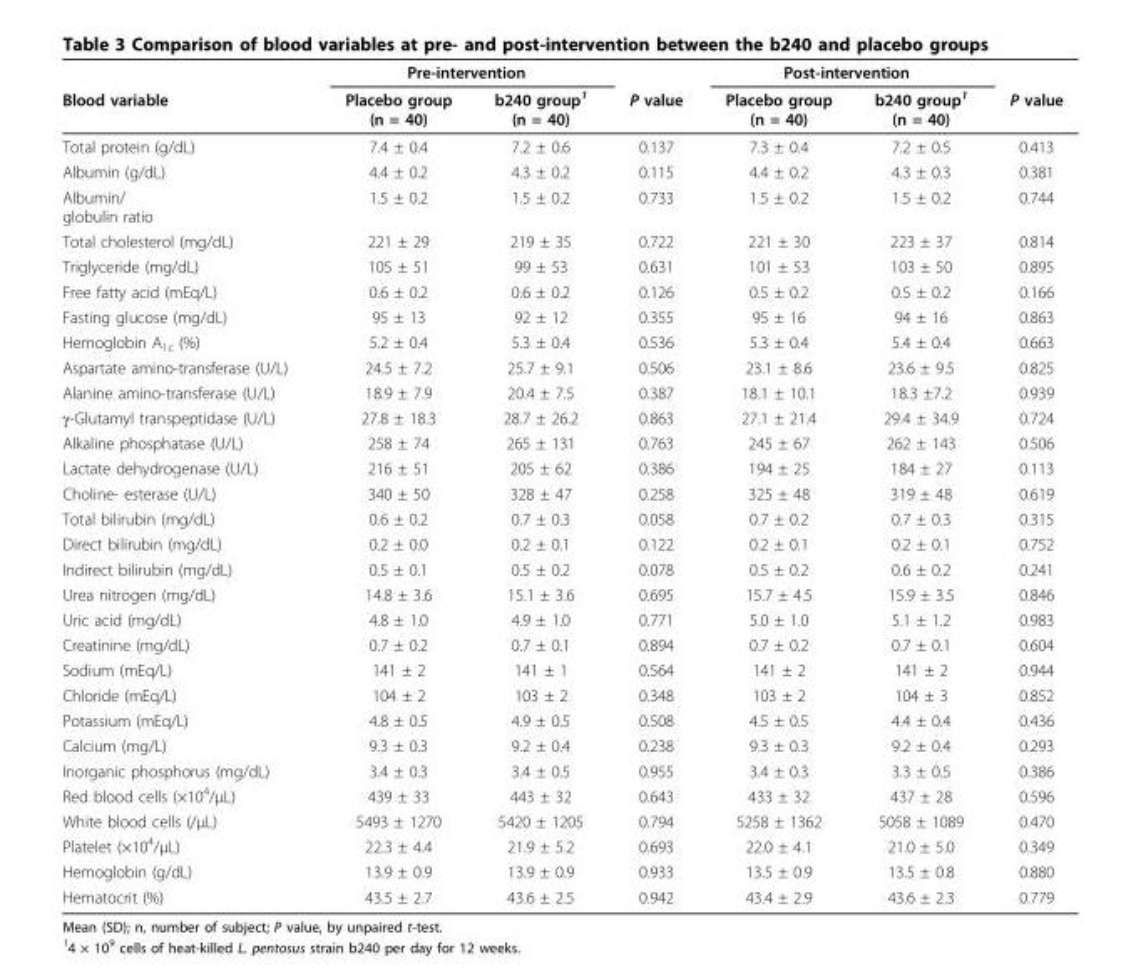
<table><thead><tr><td rowspan="2">Blood variable</td><td colspan="2">Pre-intervention</td><td rowspan="2">P value</td><td colspan="2">Post-intervention</td><td rowspan="2">P value</td></tr><tr><td>Placebo group (n = 40)</td><td>b240 group<sup>1</sup> (n = 40)</td><td>Placebo group (n = 40)</td><td>b240 group<sup>1</sup> (n = 40)</td></tr></thead><tbody><tr><td>Total protein (g/dL)</td><td>7.4 ± 0.4</td><td>7.2 ± 0.6</td><td>0.137</td><td>7.3 ± 0.4</td><td>7.2 ± 0.5</td><td>0.413</td></tr><tr><td>Albumin (g/dL)</td><td>4.4 ± 0.2</td><td>4.3 ± 0.2</td><td>0.115</td><td>4.4 ± 0.2</td><td>4.3 ± 0.3</td><td>0.381</td></tr><tr><td>Albumin/ globulin ratio</td><td>1.5 ± 0.2</td><td>1.5 ± 0.2</td><td>0.733</td><td>1.5 ± 0.2</td><td>1.5 ± 0.2</td><td>0.744</td></tr><tr><td>Total cholesterol (mg/dL)</td><td>221 ± 29</td><td>219 ± 35</td><td>0.722</td><td>221 ± 30</td><td>223 ± 37</td><td>0.814</td></tr><tr><td>Triglyceride (mg/dL)</td><td>105 ± 51</td><td>99 ± 53</td><td>0.631</td><td>101 ± 53</td><td>103 ± 50</td><td>0.895</td></tr><tr><td>Free fatty acid (mEq/L)</td><td>0.6 ± 0.2</td><td>0.6 ± 0.2</td><td>0.126</td><td>0.5 ± 0.2</td><td>0.5 ± 0.2</td><td>0.166</td></tr><tr><td>Fasting glucose (mg/dL)</td><td>95 ± 13</td><td>92 ± 12</td><td>0.355</td><td>95 ± 16</td><td>94 ± 16</td><td>0.863</td></tr><tr><td>Hemoglobin A<sub>1c</sub> (%)</td><td>5.2 ± 0.4</td><td>5.3 ± 0.4</td><td>0.536</td><td>5.3 ± 0.4</td><td>5.4 ± 0.4</td><td>0.663</td></tr><tr><td>Aspartate amino-transferase (U/L)</td><td>24.5 ± 7.2</td><td>25.7 ± 9.1</td><td>0.506</td><td>23.1 ± 8.6</td><td>23.6 ± 9.5</td><td>0.825</td></tr><tr><td>Alanine amino-transferase (U/L)</td><td>18.9 ± 7.9</td><td>20.4 ± 7.5</td><td>0.387</td><td>18.1 ± 10.1</td><td>18.3 ±7.2</td><td>0.939</td></tr><tr><td>γ-Glutamyl transpeptidase (U/L)</td><td>27.8 ± 18.3</td><td>28.7 ± 26.2</td><td>0.863</td><td>27.1 ± 21.4</td><td>29.4 ± 34.9</td><td>0.724</td></tr><tr><td>Alkaline phosphatase (U/L)</td><td>258 ± 74</td><td>265 ± 131</td><td>0.763</td><td>245 ± 67</td><td>262 ± 143</td><td>0.506</td></tr><tr><td>Lactate dehydrogenase (U/L)</td><td>216 ± 51</td><td>205 ± 62</td><td>0.386</td><td>194 ± 25</td><td>184 ± 27</td><td>0.113</td></tr><tr><td>Choline- esterase (U/L)</td><td>340 ± 50</td><td>328 ± 47</td><td>0.258</td><td>325 ± 48</td><td>319 ± 48</td><td>0.619</td></tr><tr><td>Total bilirubin (mg/dL)</td><td>0.6 ± 0.2</td><td>0.7 ± 0.3</td><td>0.058</td><td>0.7 ± 0.2</td><td>0.7 ± 0.3</td><td>0.315</td></tr><tr><td>Direct bilirubin (mg/dL)</td><td>0.2 ± 0.0</td><td>0.2 ± 0.1</td><td>0.122</td><td>0.2 ± 0.1</td><td>0.2 ± 0.1</td><td>0.752</td></tr><tr><td>Indirect bilirubin (mg/dL)</td><td>0.5 ± 0.1</td><td>0.5 ± 0.2</td><td>0.078</td><td>0.5 ± 0.2</td><td>0.6 ± 0.2</td><td>0.241</td></tr><tr><td>Urea nitrogen (mg/dL)</td><td>14.8 ± 3.6</td><td>15.1 ± 3.6</td><td>0.695</td><td>15.7 ± 4.5</td><td>15.9 ± 3.5</td><td>0.846</td></tr><tr><td>Uric acid (mg/dL)</td><td>4.8 ± 1.0</td><td>4.9 ± 1.0</td><td>0.771</td><td>5.0 ± 1.0</td><td>5.1 ± 1.2</td><td>0.983</td></tr><tr><td>Creatinine (mg/dL)</td><td>0.7 ± 0.2</td><td>0.7 ± 0.1</td><td>0.894</td><td>0.7 ± 0.2</td><td>0.7 ± 0.1</td><td>0.604</td></tr><tr><td>Sodium (mEq/L)</td><td>141 ± 2</td><td>141 ± 1</td><td>0.564</td><td>141 ± 2</td><td>141 ± 2</td><td>0.944</td></tr><tr><td>Chloride (mEq/L)</td><td>104 ± 2</td><td>103 ± 2</td><td>0.348</td><td>103 ± 2</td><td>104 ± 3</td><td>0.852</td></tr><tr><td>Potassium (mEq/L)</td><td>4.8 ± 0.5</td><td>4.9 ± 0.5</td><td>0.508</td><td>4.5 ± 0.5</td><td>4.4 ± 0.4</td><td>0.436</td></tr><tr><td>Calcium (mg/L)</td><td>9.3 ± 0.3</td><td>9.2 ± 0.4</td><td>0.238</td><td>9.3 ± 0.3</td><td>9.2 ± 0.4</td><td>0.293</td></tr><tr><td>Inorganic phosphorus (mg/dL)</td><td>3.4 ± 0.3</td><td>3.4 ± 0.5</td><td>0.955</td><td>3.4 ± 0.3</td><td>3.3 ± 0.5</td><td>0.386</td></tr><tr><td>Red blood cells (×10<sup>4</sup>/μL)</td><td>439 ± 33</td><td>443 ± 32</td><td>0.643</td><td>433 ± 32</td><td>437 ± 28</td><td>0.596</td></tr><tr><td>White blood cells (/μL)</td><td>5493 ± 1270</td><td>5420 ± 1205</td><td>0.794</td><td>5258 ± 1362</td><td>5058 ± 1089</td><td>0.470</td></tr><tr><td>Platelet (×10<sup>4</sup>/μL)</td><td>22.3 ± 4.4</td><td>21.9 ± 5.2</td><td>0.693</td><td>22.0 ± 4.1</td><td>21.0 ± 5.0</td><td>0.349</td></tr><tr><td>Hemoglobin (g/dL)</td><td>13.9 ± 0.9</td><td>13.9 ± 0.9</td><td>0.933</td><td>13.5 ± 0.9</td><td>13.5 ± 0.8</td><td>0.880</td></tr><tr><td>Hematocrit (%)</td><td>43.5 ± 2.7</td><td>43.6 ± 2.5</td><td>0.942</td><td>43.4 ± 2.9</td><td>43.6 ± 2.3</td><td>0.779</td></tr></tbody></table>